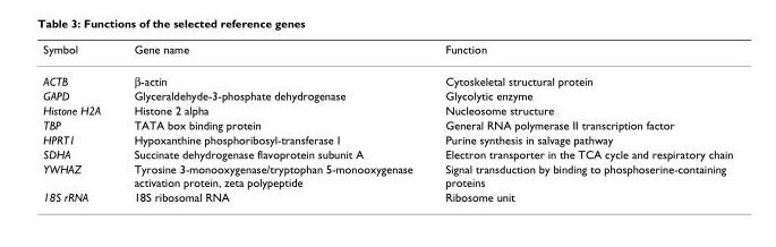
<table><thead><tr><td>Symbol</td><td>Gene name</td><td>Function</td></tr></thead><tbody><tr><td>ACTB</td><td>β-actin</td><td>Cytoskeletal structural protein</td></tr><tr><td>GAPD</td><td>Glyceraldehyde-3-phosphate dehydrogenase</td><td>Glycolytic enzyme</td></tr><tr><td>Histone H2A</td><td>Histone 2 alpha</td><td>Nucleosome structure</td></tr><tr><td>TBP</td><td>TATA box binding protein</td><td>General RNA polymerase II transcription factor</td></tr><tr><td>HPRT1</td><td>Hypoxanthine phosphoribosyl-transferase I</td><td>Purine synthesis in salvage pathway</td></tr><tr><td>SDHA</td><td>Succinate dehydrogenase flavoprotein subunit A</td><td>Electron transporter in the TCA cycle and respiratory chain</td></tr><tr><td>YWHAZ</td><td>Tyrosine 3-monooxygenase/tryptophan 5-monooxygenase activation protein, zeta polypeptide</td><td>Signal transduction by binding to phosphoserine-containing proteins</td></tr><tr><td>18S rRNA</td><td>18S ribosomal RNA</td><td>Ribosome unit</td></tr></tbody></table>